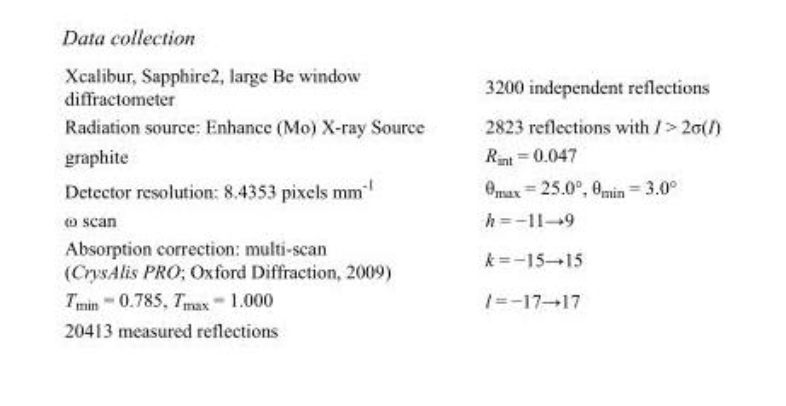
<table><tbody><tr><td>Xcalibur, Sapphire2, large Be window diffractometer</td><td>3200 independent reflections</td></tr><tr><td>Radiation source: Enhance (Mo) X-ray Source</td><td>2823 reflections with I &gt; 2σ(I)</td></tr><tr><td>graphite</td><td>R<sub>int</sub> = 0.047</td></tr><tr><td>Detector resolution: 8.4353 pixels mm<sup>-1</sup></td><td>θ<sub>max</sub> = 25.0°, θ<sub>min</sub> = 3.0°</td></tr><tr><td>ω scan</td><td>h = −11→9</td></tr><tr><td>Absorption correction: multi-scan (CrysAlis PRO; Oxford Diffraction, 2009)</td><td>k = −15→15</td></tr><tr><td>T<sub>min</sub> = 0.785, T<sub>max</sub> = 1.000</td><td>l = −17→17</td></tr><tr><td>20413 measured reflections</td><td></td></tr></tbody></table>